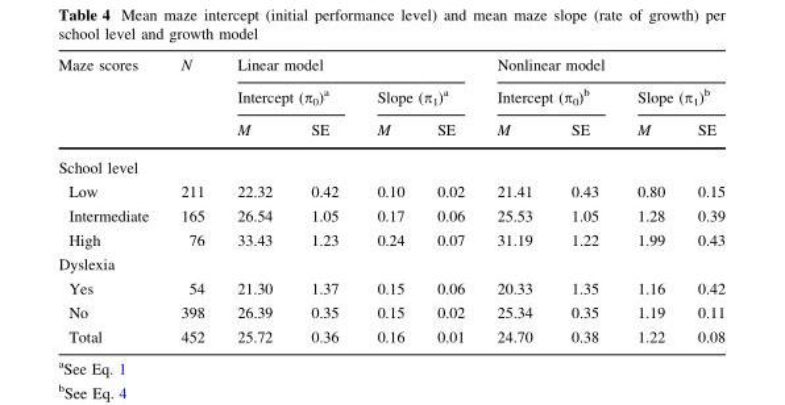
<table><thead><tr><td rowspan="3">Maze scores</td><td rowspan="3">N</td><td colspan="4">Linear model</td><td colspan="4">Nonlinear model</td></tr><tr><td colspan="2">Intercept (π<sub>0</sub>)<sup>a</sup></td><td colspan="2">Slope (π<sub>1</sub>)<sup>a</sup></td><td colspan="2">Intercept (π<sub>0</sub>)<sup>b</sup></td><td colspan="2">Slope (π<sub>1</sub>)<sup>b</sup></td></tr><tr><td>M</td><td>SE</td><td>M</td><td>SE</td><td>M</td><td>SE</td><td>M</td><td>SE</td></tr></thead><tbody><tr><td colspan="10">School level</td></tr><tr><td>Low</td><td>211</td><td>22.32</td><td>0.42</td><td>0.10</td><td>0.02</td><td>21.41</td><td>0.43</td><td>0.80</td><td>0.15</td></tr><tr><td>Intermediate</td><td>165</td><td>26.54</td><td>1.05</td><td>0.17</td><td>0.06</td><td>25.53</td><td>1.05</td><td>1.28</td><td>0.39</td></tr><tr><td>High</td><td>76</td><td>33.43</td><td>1.23</td><td>0.24</td><td>0.07</td><td>31.19</td><td>1.22</td><td>1.99</td><td>0.43</td></tr><tr><td colspan="10">Dyslexia</td></tr><tr><td>Yes</td><td>54</td><td>21.30</td><td>1.37</td><td>0.15</td><td>0.06</td><td>20.33</td><td>1.35</td><td>1.16</td><td>0.42</td></tr><tr><td>No</td><td>398</td><td>26.39</td><td>0.35</td><td>0.15</td><td>0.02</td><td>25.34</td><td>0.35</td><td>1.19</td><td>0.11</td></tr><tr><td>Total</td><td>452</td><td>25.72</td><td>0.36</td><td>0.16</td><td>0.01</td><td>24.70</td><td>0.38</td><td>1.22</td><td>0.08</td></tr></tbody></table>